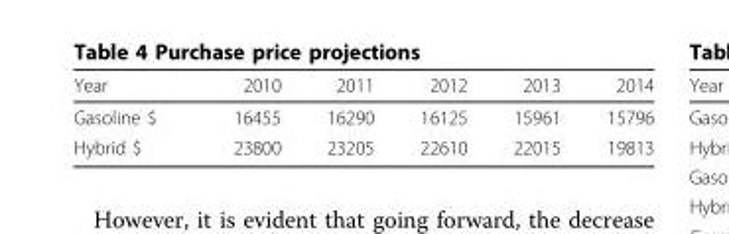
<table><thead><tr><td>Year</td><td>2010</td><td>2011</td><td>2012</td><td>2013</td><td>2014</td></tr></thead><tbody><tr><td>Gasoline $</td><td>16455</td><td>16290</td><td>16125</td><td>15961</td><td>15796</td></tr><tr><td>Hybrid $</td><td>23800</td><td>23205</td><td>22610</td><td>22015</td><td>19813</td></tr></tbody></table>